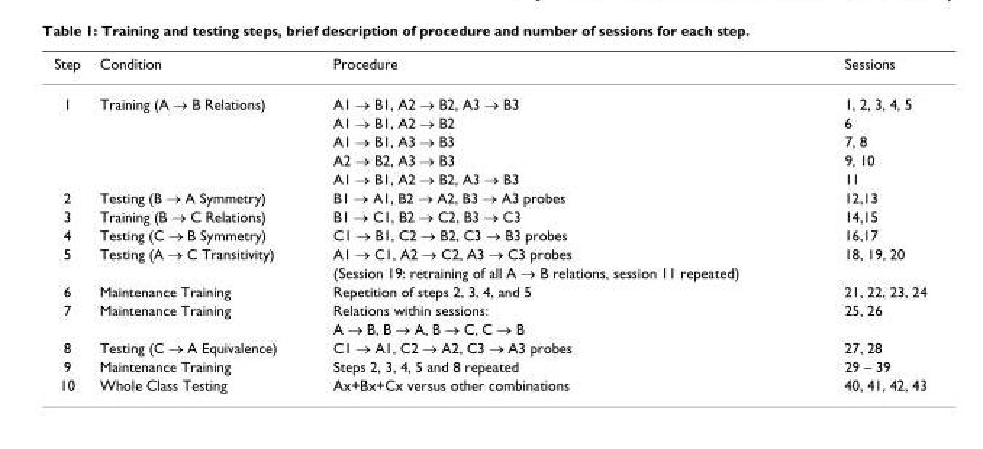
<table><thead><tr><td>Step</td><td>Condition</td><td>Procedure</td><td>Sessions</td></tr></thead><tbody><tr><td rowspan="5">1</td><td>Training (A → B Relations)</td><td>A1 → B1, A2 → B2, A3 → B3</td><td>1, 2, 3, 4, 5</td></tr><tr><td></td><td>A1 → B1, A2 → B2</td><td>6</td></tr><tr><td></td><td>A1 → B1, A3 → B3</td><td>7, 8</td></tr><tr><td></td><td>A2 → B2, A3 → B3</td><td>9, 10</td></tr><tr><td></td><td>A1 → B1, A2 → B2, A3 → B3</td><td>11</td></tr><tr><td>2</td><td>Testing (B → A Symmetry)</td><td>B1 → A1, B2 → A2, B3 → A3 probes</td><td>12,13</td></tr><tr><td>3</td><td>Training (B → C Relations)</td><td>B1 → C1, B2 → C2, B3 → C3</td><td>14,15</td></tr><tr><td>4</td><td>Testing (C → B Symmetry)</td><td>C1 → B1, C2 → B2, C3 → B3 probes</td><td>16,17</td></tr><tr><td rowspan="2">5</td><td>Testing (A → C Transitivity)</td><td>A1 → C1, A2 → C2, A3 → C3 probes</td><td>18, 19, 20</td></tr><tr><td></td><td>(Session 19: retraining of all A → B relations, session 11 repeated)</td><td></td></tr><tr><td>6</td><td>Maintenance Training</td><td>Repetition of steps 2, 3, 4, and 5</td><td>21, 22, 23, 24</td></tr><tr><td rowspan="2">7</td><td>Maintenance Training</td><td>Relations within sessions:</td><td>25, 26</td></tr><tr><td></td><td>A → B, B → A, B → C, C → B</td><td></td></tr><tr><td>8</td><td>Testing (C → A Equivalence)</td><td>C1 → A1, C2 → A2, C3 → A3 probes</td><td>27, 28</td></tr><tr><td>9</td><td>Maintenance Training</td><td>Steps 2, 3, 4, 5 and 8 repeated</td><td>29 – 39</td></tr><tr><td>10</td><td>Whole Class Testing</td><td>Ax+Bx+Cx versus other combinations</td><td>40, 41, 42, 43</td></tr></tbody></table>